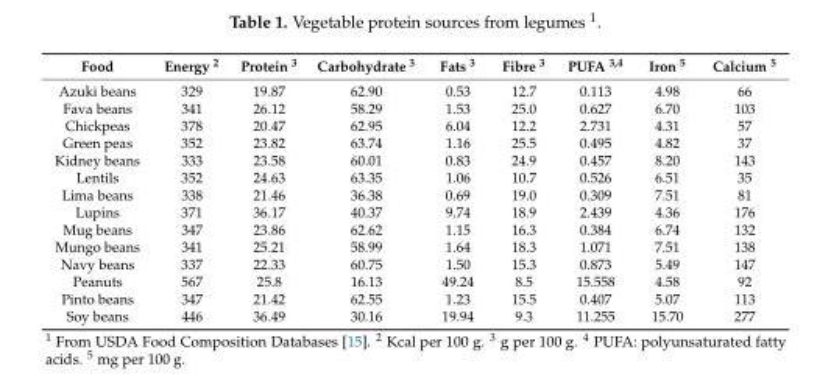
<table><thead><tr><td>Food</td><td>Energy <sup>2</sup></td><td>Protein <sup>3</sup></td><td>Carbohydrate <sup>3</sup></td><td>Fats <sup>3</sup></td><td>Fibre <sup>3</sup></td><td>PUFA <sup>3,4</sup></td><td>Iron <sup>5</sup></td><td>Calcium <sup>5</sup></td></tr></thead><tbody><tr><td>Azuki beans</td><td>329</td><td>19.87</td><td>62.90</td><td>0.53</td><td>12.7</td><td>0.113</td><td>4.98</td><td>66</td></tr><tr><td>Fava beans</td><td>341</td><td>26.12</td><td>58.29</td><td>1.53</td><td>25.0</td><td>0.627</td><td>6.70</td><td>103</td></tr><tr><td>Chickpeas</td><td>378</td><td>20.47</td><td>62.95</td><td>6.04</td><td>12.2</td><td>2.731</td><td>4.31</td><td>57</td></tr><tr><td>Green peas</td><td>352</td><td>23.82</td><td>63.74</td><td>1.16</td><td>25.5</td><td>0.495</td><td>4.82</td><td>37</td></tr><tr><td>Kidney beans</td><td>333</td><td>23.58</td><td>60.01</td><td>0.83</td><td>24.9</td><td>0.457</td><td>8.20</td><td>143</td></tr><tr><td>Lentils</td><td>352</td><td>24.63</td><td>63.35</td><td>1.06</td><td>10.7</td><td>0.526</td><td>6.51</td><td>35</td></tr><tr><td>Lima beans</td><td>338</td><td>21.46</td><td>36.38</td><td>0.69</td><td>19.0</td><td>0.309</td><td>7.51</td><td>81</td></tr><tr><td>Lupins</td><td>371</td><td>36.17</td><td>40.37</td><td>9.74</td><td>18.9</td><td>2.439</td><td>4.36</td><td>176</td></tr><tr><td>Mug beans</td><td>347</td><td>23.86</td><td>62.62</td><td>1.15</td><td>16.3</td><td>0.384</td><td>6.74</td><td>132</td></tr><tr><td>Mungo beans</td><td>341</td><td>25.21</td><td>58.99</td><td>1.64</td><td>18.3</td><td>1.071</td><td>7.51</td><td>138</td></tr><tr><td>Navy beans</td><td>337</td><td>22.33</td><td>60.75</td><td>1.50</td><td>15.3</td><td>0.873</td><td>5.49</td><td>147</td></tr><tr><td>Peanuts</td><td>567</td><td>25.8</td><td>16.13</td><td>49.24</td><td>8.5</td><td>15.558</td><td>4.58</td><td>92</td></tr><tr><td>Pinto beans</td><td>347</td><td>21.42</td><td>62.55</td><td>1.23</td><td>15.5</td><td>0.407</td><td>5.07</td><td>113</td></tr><tr><td>Soy beans</td><td>446</td><td>36.49</td><td>30.16</td><td>19.94</td><td>9.3</td><td>11.255</td><td>15.70</td><td>277</td></tr></tbody></table>